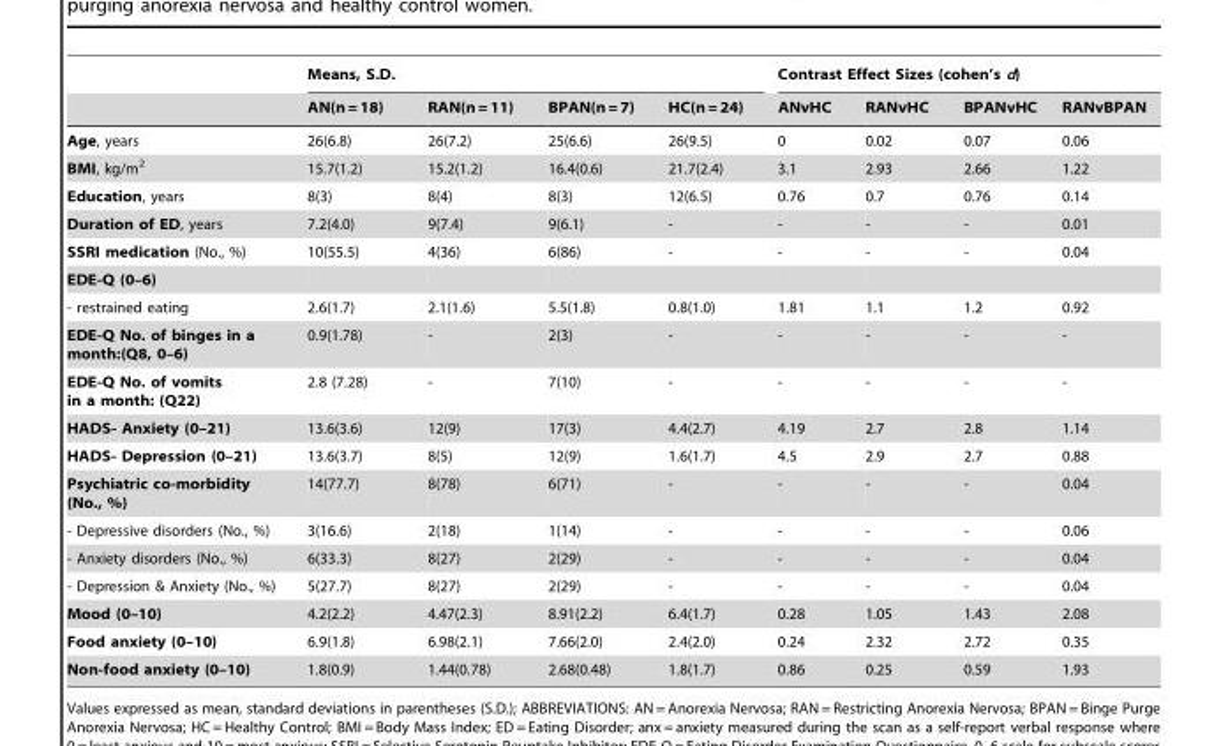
<table><thead><tr><td rowspan="2"></td><td colspan="4">Means, S.D.</td><td colspan="4">Contrast Effect Sizes (cohen’s d)</td></tr><tr><td>AN(n = 18)</td><td>RAN(n = 11)</td><td>BPAN(n = 7)</td><td>HC(n = 24)</td><td>ANvHC</td><td>RANvHC</td><td>BPANvHC</td><td>RANvBPAN</td></tr></thead><tbody><tr><td>Age, years</td><td>26(6.8)</td><td>26(7.2)</td><td>25(6.6)</td><td>26(9.5)</td><td>0</td><td>0.02</td><td>0.07</td><td>0.06</td></tr><tr><td>BMI, kg/m<sup>2</sup></td><td>15.7(1.2)</td><td>15.2(1.2)</td><td>16.4(0.6)</td><td>21.7(2.4)</td><td>3.1</td><td>2.93</td><td>2.66</td><td>1.22</td></tr><tr><td>Education, years</td><td>8(3)</td><td>8(4)</td><td>8(3)</td><td>12(6.5)</td><td>0.76</td><td>0.7</td><td>0.76</td><td>0.14</td></tr><tr><td>Duration of ED, years</td><td>7.2(4.0)</td><td>9(7.4)</td><td>9(6.1)</td><td>-</td><td>-</td><td>-</td><td>-</td><td>0.01</td></tr><tr><td>SSRI medication (No., %)</td><td>10(55.5)</td><td>4(36)</td><td>6(86)</td><td>-</td><td>-</td><td>-</td><td>-</td><td>0.04</td></tr><tr><td colspan="9">EDE-Q (0–6)</td></tr><tr><td>- restrained eating</td><td>2.6(1.7)</td><td>2.1(1.6)</td><td>5.5(1.8)</td><td>0.8(1.0)</td><td>1.81</td><td>1.1</td><td>1.2</td><td>0.92</td></tr><tr><td>EDE-Q No. of binges in a month:(Q8, 0–6)</td><td>0.9(1.78)</td><td>-</td><td>2(3)</td><td>-</td><td>-</td><td>-</td><td>-</td><td>-</td></tr><tr><td>EDE-Q No. of vomits in a month: (Q22)</td><td>2.8 (7.28)</td><td>-</td><td>7(10)</td><td>-</td><td>-</td><td>-</td><td>-</td><td>-</td></tr><tr><td>HADS- Anxiety (0–21)</td><td>13.6(3.6)</td><td>12(9)</td><td>17(3)</td><td>4.4(2.7)</td><td>4.19</td><td>2.7</td><td>2.8</td><td>1.14</td></tr><tr><td>HADS- Depression (0–21)</td><td>13.6(3.7)</td><td>8(5)</td><td>12(9)</td><td>1.6(1.7)</td><td>4.5</td><td>2.9</td><td>2.7</td><td>0.88</td></tr><tr><td>Psychiatric co-morbidity (No., %)</td><td>14(77.7)</td><td>8(78)</td><td>6(71)</td><td>-</td><td>-</td><td>-</td><td>-</td><td>0.04</td></tr><tr><td>- Depressive disorders (No., %)</td><td>3(16.6)</td><td>2(18)</td><td>1(14)</td><td>-</td><td>-</td><td>-</td><td>-</td><td>0.06</td></tr><tr><td>- Anxiety disorders (No., %)</td><td>6(33.3)</td><td>8(27)</td><td>2(29)</td><td>-</td><td>-</td><td>-</td><td>-</td><td>0.04</td></tr><tr><td>- Depression &amp; Anxiety (No., %)</td><td>5(27.7)</td><td>8(27)</td><td>2(29)</td><td>-</td><td>-</td><td>-</td><td>-</td><td>0.04</td></tr><tr><td>Mood (0–10)</td><td>4.2(2.2)</td><td>4.47(2.3)</td><td>8.91(2.2)</td><td>6.4(1.7)</td><td>0.28</td><td>1.05</td><td>1.43</td><td>2.08</td></tr><tr><td>Food anxiety (0–10)</td><td>6.9(1.8)</td><td>6.98(2.1)</td><td>7.66(2.0)</td><td>2.4(2.0)</td><td>0.24</td><td>2.32</td><td>2.72</td><td>0.35</td></tr><tr><td>Non-food anxiety (0–10)</td><td>1.8(0.9)</td><td>1.44(0.78)</td><td>2.68(0.48)</td><td>1.8(1.7)</td><td>0.86</td><td>0.25</td><td>0.59</td><td>1.93</td></tr></tbody></table>